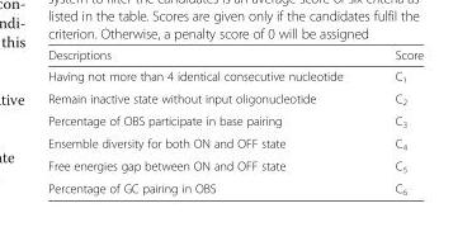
<table><thead><tr><td>Descriptions</td><td>Score</td></tr></thead><tbody><tr><td>Having not more than 4 identical consecutive nucleotide</td><td>C<sub>1</sub></td></tr><tr><td>Remain inactive state without input oligonucleotide</td><td>C<sub>2</sub></td></tr><tr><td>Percentage of OBS participate in base pairing</td><td>C<sub>3</sub></td></tr><tr><td>Ensemble diversity for both ON and OFF state</td><td>C<sub>4</sub></td></tr><tr><td>Free energies gap between ON and OFF state</td><td>C<sub>5</sub></td></tr><tr><td>Percentage of GC pairing in OBS</td><td>C<sub>6</sub></td></tr></tbody></table>